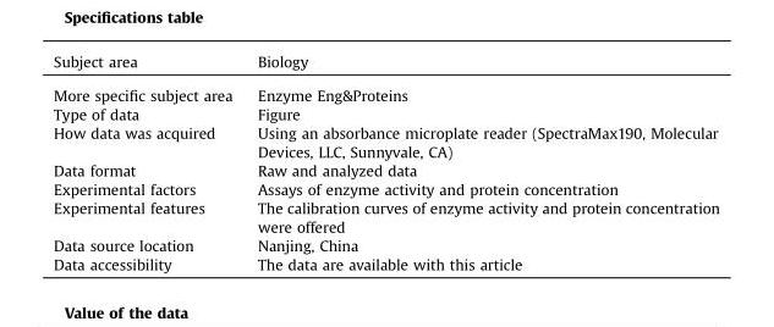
<table><thead><tr><td>Subject area</td><td>Biology</td></tr></thead><tbody><tr><td>More specific subject area</td><td>Enzyme Eng&amp;Proteins</td></tr><tr><td>Type of data</td><td>Figure</td></tr><tr><td>How data was acquired</td><td>Using an absorbance microplate reader (SpectraMax190, Molecular Devices, LLC, Sunnyvale, CA)</td></tr><tr><td>Data format</td><td>Raw and analyzed data</td></tr><tr><td>Experimental factors</td><td>Assays of enzyme activity and protein concentration</td></tr><tr><td>Experimental features</td><td>The calibration curves of enzyme activity and protein concentration were offered</td></tr><tr><td>Data source location</td><td>Nanjing, China</td></tr><tr><td>Data accessibility</td><td>The data are available with this article</td></tr></tbody></table>